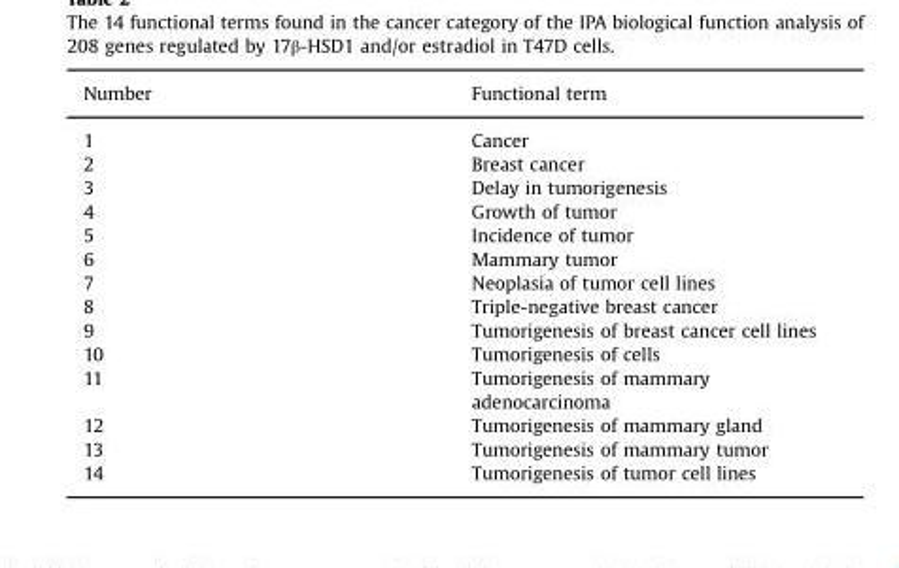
<table><thead><tr><td>Number</td><td>Functional term</td></tr></thead><tbody><tr><td>1</td><td>Cancer</td></tr><tr><td>2</td><td>Breast cancer</td></tr><tr><td>3</td><td>Delay in tumorigenesis</td></tr><tr><td>4</td><td>Growth of tumor</td></tr><tr><td>5</td><td>Incidence of tumor</td></tr><tr><td>6</td><td>Mammary tumor</td></tr><tr><td>7</td><td>Neoplasia of tumor cell lines</td></tr><tr><td>8</td><td>Triple-negative breast cancer</td></tr><tr><td>9</td><td>Tumorigenesis of breast cancer cell lines</td></tr><tr><td>10</td><td>Tumorigenesis of cells</td></tr><tr><td>11</td><td>Tumorigenesis of mammary adenocarcinoma</td></tr><tr><td>12</td><td>Tumorigenesis of mammary gland</td></tr><tr><td>13</td><td>Tumorigenesis of mammary tumor</td></tr><tr><td>14</td><td>Tumorigenesis of tumor cell lines</td></tr></tbody></table>